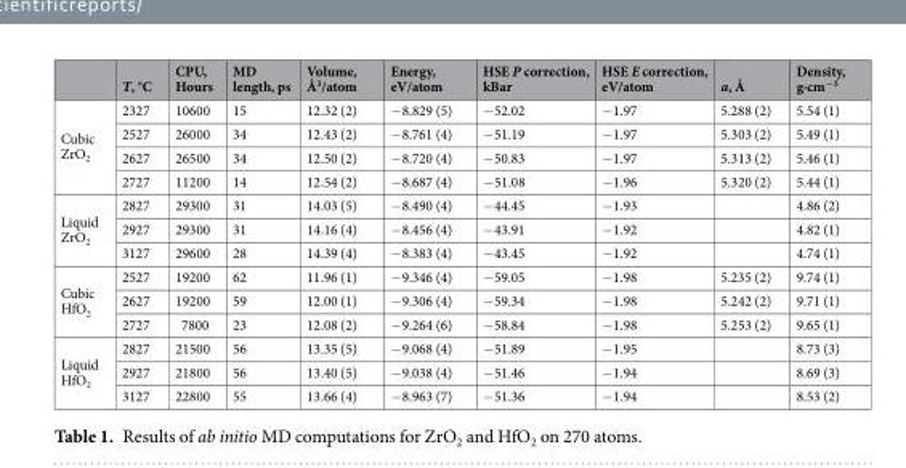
<table><thead><tr><td></td><td>T, °C</td><td>CPU, Hours</td><td>MD length, ps</td><td>Volume, Å<sup>3</sup>/atom</td><td>Energy, eV/atom</td><td>HSE P correction, kBar</td><td>HSE E correction, eV/atom</td><td>a, Å</td><td>Density, g·cm<sup>−3</sup></td></tr></thead><tbody><tr><td rowspan="4">Cubic ZrO<sub>2</sub></td><td>2327</td><td>10600</td><td>15</td><td>12.32 (2)</td><td>−8.829 (5)</td><td>−52.02</td><td>−1.97</td><td>5.288 (2)</td><td>5.54 (1)</td></tr><tr><td>2527</td><td>26000</td><td>34</td><td>12.43 (2)</td><td>−8.761 (4)</td><td>−51.19</td><td>−1.97</td><td>5.303 (2)</td><td>5.49 (1)</td></tr><tr><td>2627</td><td>26500</td><td>34</td><td>12.50 (2)</td><td>−8.720 (4)</td><td>−50.83</td><td>−1.97</td><td>5.313 (2)</td><td>5.46 (1)</td></tr><tr><td>2727</td><td>11200</td><td>14</td><td>12.54 (2)</td><td>−8.687 (4)</td><td>−51.08</td><td>−1.96</td><td>5.320 (2)</td><td>5.44 (1)</td></tr><tr><td rowspan="3">Liquid ZrO<sub>2</sub></td><td>2827</td><td>29300</td><td>31</td><td>14.03 (5)</td><td>−8.490 (4)</td><td>−44.45</td><td>−1.93</td><td></td><td>4.86 (2)</td></tr><tr><td>2927</td><td>29300</td><td>31</td><td>14.16 (4)</td><td>−8.456 (4)</td><td>−43.91</td><td>−1.92</td><td></td><td>4.82 (1)</td></tr><tr><td>3127</td><td>29600</td><td>28</td><td>14.39 (4)</td><td>−8.383 (4)</td><td>−43.45</td><td>−1.92</td><td></td><td>4.74 (1)</td></tr><tr><td rowspan="3">Cubic HfO<sub>2</sub></td><td>2527</td><td>19200</td><td>62</td><td>11.96 (1)</td><td>−9.346 (4)</td><td>−59.05</td><td>−1.98</td><td>5.235 (2)</td><td>9.74 (1)</td></tr><tr><td>2627</td><td>19200</td><td>59</td><td>12.00 (1)</td><td>−9.306 (4)</td><td>−59.34</td><td>−1.98</td><td>5.242 (2)</td><td>9.71 (1)</td></tr><tr><td>2727</td><td>7800</td><td>23</td><td>12.08 (2)</td><td>−9.264 (6)</td><td>−58.84</td><td>−1.98</td><td>5.253 (2)</td><td>9.65 (1)</td></tr><tr><td rowspan="3">Liquid HfO<sub>2</sub></td><td>2827</td><td>21500</td><td>56</td><td>13.35 (5)</td><td>−9.068 (4)</td><td>−51.89</td><td>−1.95</td><td></td><td>8.73 (3)</td></tr><tr><td>2927</td><td>21800</td><td>56</td><td>13.40 (5)</td><td>−9.038 (4)</td><td>−51.46</td><td>−1.94</td><td></td><td>8.69 (3)</td></tr><tr><td>3127</td><td>22800</td><td>55</td><td>13.66 (4)</td><td>−8.963 (7)</td><td>−51.36</td><td>−1.94</td><td></td><td>8.53 (2)</td></tr></tbody></table>